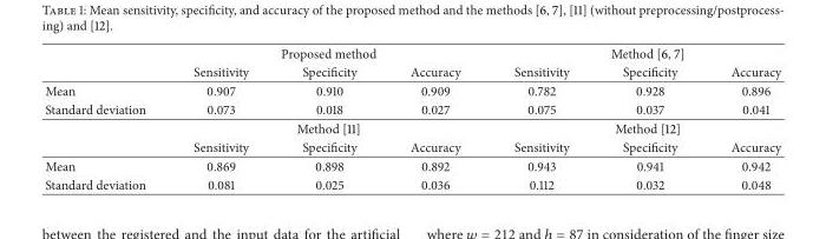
<table><thead><tr><td rowspan="2"></td><td colspan="3">Proposed method</td><td colspan="3">Method [6, 7]</td></tr><tr><td>Sensitivity</td><td>Specificity</td><td>Accuracy</td><td>Sensitivity</td><td>Specificity</td><td>Accuracy</td></tr></thead><tbody><tr><td>Mean</td><td>0.907</td><td>0.910</td><td>0.909</td><td>0.782</td><td>0.928</td><td>0.896</td></tr><tr><td rowspan="3">Standard deviation</td><td>0.073</td><td>0.018</td><td>0.027</td><td>0.075</td><td>0.037</td><td>0.041</td></tr><tr><td colspan="3">Method [11]</td><td colspan="3">Method [12]</td></tr><tr><td>Sensitivity</td><td>Specificity</td><td>Accuracy</td><td>Sensitivity</td><td>Specificity</td><td>Accuracy</td></tr><tr><td>Mean</td><td>0.869</td><td>0.898</td><td>0.892</td><td>0.943</td><td>0.941</td><td>0.942</td></tr><tr><td>Standard deviation</td><td>0.081</td><td>0.025</td><td>0.036</td><td>0.112</td><td>0.032</td><td>0.048</td></tr></tbody></table>